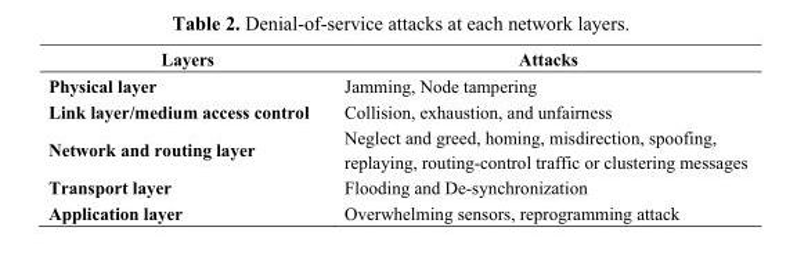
<table><thead><tr><td>Layers</td><td>Attacks</td></tr></thead><tbody><tr><td>Physical layer</td><td>Jamming, Node tampering</td></tr><tr><td>Link layer/medium access control</td><td>Collision, exhaustion, and unfairness</td></tr><tr><td>Network and routing layer</td><td>Neglect and greed, homing, misdirection, spoofing, replaying, routing-control traffic or clustering messages</td></tr><tr><td>Transport layer</td><td>Flooding and De-synchronization</td></tr><tr><td>Application layer</td><td>Overwhelming sensors, reprogramming attack</td></tr></tbody></table>